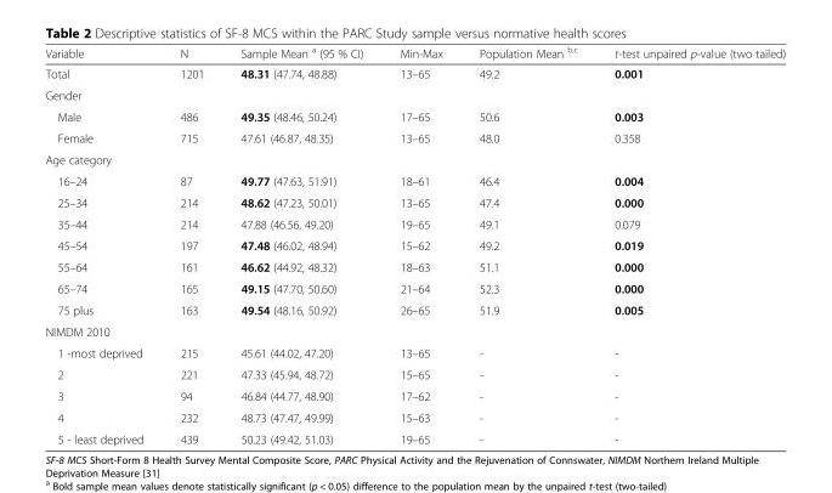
<table><thead><tr><td>Variable</td><td>N</td><td>Sample Mean <sup>a</sup> (95 % CI)</td><td>Min-Max</td><td>Population Mean <sup>b,c</sup></td><td>t-test unpaired p-value (two tailed)</td></tr></thead><tbody><tr><td>Total</td><td>1201</td><td>48.31 (47.74, 48.88)</td><td>13–65</td><td>49.2</td><td>0.001</td></tr><tr><td colspan="6">Gender</td></tr><tr><td>Male</td><td>486</td><td>49.35 (48.46, 50.24)</td><td>17–65</td><td>50.6</td><td>0.003</td></tr><tr><td>Female</td><td>715</td><td>47.61 (46.87, 48.35)</td><td>13–65</td><td>48.0</td><td>0.358</td></tr><tr><td colspan="6">Age category</td></tr><tr><td>16–24</td><td>87</td><td>49.77 (47.63, 51.91)</td><td>18–61</td><td>46.4</td><td>0.004</td></tr><tr><td>25–34</td><td>214</td><td>48.62 (47.23, 50.01)</td><td>13–65</td><td>47.4</td><td>0.000</td></tr><tr><td>35–44</td><td>214</td><td>47.88 (46.56, 49.20)</td><td>19–65</td><td>49.1</td><td>0.079</td></tr><tr><td>45–54</td><td>197</td><td>47.48 (46.02, 48.94)</td><td>15–62</td><td>49.2</td><td>0.019</td></tr><tr><td>55–64</td><td>161</td><td>46.62 (44.92, 48.32)</td><td>18–63</td><td>51.1</td><td>0.000</td></tr><tr><td>65–74</td><td>165</td><td>49.15 (47.70, 50.60)</td><td>21–64</td><td>52.3</td><td>0.000</td></tr><tr><td>75 plus</td><td>163</td><td>49.54 (48.16, 50.92)</td><td>26–65</td><td>51.9</td><td>0.005</td></tr><tr><td colspan="6">NIMDM 2010</td></tr><tr><td>1 -most deprived</td><td>215</td><td>45.61 (44.02, 47.20)</td><td>13–65</td><td>-</td><td>-</td></tr><tr><td>2</td><td>221</td><td>47.33 (45.94, 48.72)</td><td>15–65</td><td>-</td><td>-</td></tr><tr><td>3</td><td>94</td><td>46.84 (44.77, 48.90)</td><td>17–62</td><td>-</td><td>-</td></tr><tr><td>4</td><td>232</td><td>48.73 (47.47, 49.99)</td><td>15–63</td><td>-</td><td>-</td></tr><tr><td>5 - least deprived</td><td>439</td><td>50.23 (49.42, 51.03)</td><td>19–65</td><td>-</td><td>-</td></tr></tbody></table>